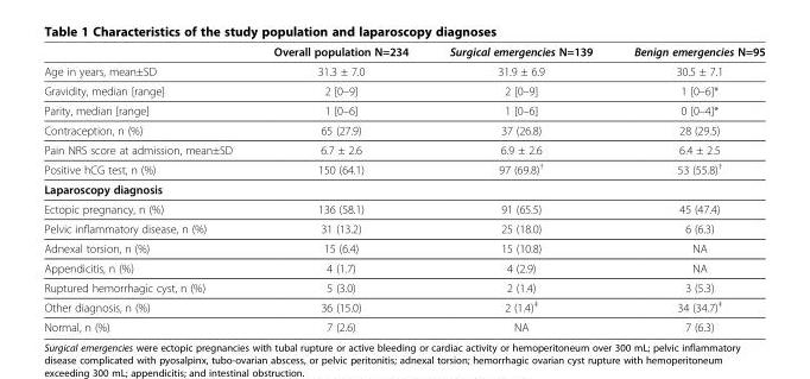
<table><thead><tr><td></td><td>Overall population N=234</td><td>Surgical emergencies N=139</td><td>Benign emergencies N=95</td></tr></thead><tbody><tr><td>Age in years, mean±SD</td><td>31.3 ± 7.0</td><td>31.9 ± 6.9</td><td>30.5 ± 7.1</td></tr><tr><td>Gravidity, median [range]</td><td>2 [0–9]</td><td>2 [0–9]</td><td>1 [0–6]*</td></tr><tr><td>Parity, median [range]</td><td>1 [0–6]</td><td>1 [0–6]</td><td>0 [0–4]*</td></tr><tr><td>Contraception, n (%)</td><td>65 (27.9)</td><td>37 (26.8)</td><td>28 (29.5)</td></tr><tr><td>Pain NRS score at admission, mean±SD</td><td>6.7 ± 2.6</td><td>6.9 ± 2.6</td><td>6.4 ± 2.5</td></tr><tr><td>Positive hCG test, n (%)</td><td>150 (64.1)</td><td>97 (69.8)<sup>†</sup></td><td>53 (55.8)<sup>†</sup></td></tr><tr><td colspan="4">Laparoscopy diagnosis</td></tr><tr><td>Ectopic pregnancy, n (%)</td><td>136 (58.1)</td><td>91 (65.5)</td><td>45 (47.4)</td></tr><tr><td>Pelvic inflammatory disease, n (%)</td><td>31 (13.2)</td><td>25 (18.0)</td><td>6 (6.3)</td></tr><tr><td>Adnexal torsion, n (%)</td><td>15 (6.4)</td><td>15 (10.8)</td><td>NA</td></tr><tr><td>Appendicitis, n (%)</td><td>4 (1.7)</td><td>4 (2.9)</td><td>NA</td></tr><tr><td>Ruptured hemorrhagic cyst, n (%)</td><td>5 (3.0)</td><td>2 (1.4)</td><td>3 (5.3)</td></tr><tr><td>Other diagnosis, n (%)</td><td>36 (15.0)</td><td>2 (1.4)<sup>‡</sup></td><td>34 (34.7)<sup>‡</sup></td></tr><tr><td>Normal, n (%)</td><td>7 (2.6)</td><td>NA</td><td>7 (6.3)</td></tr></tbody></table>